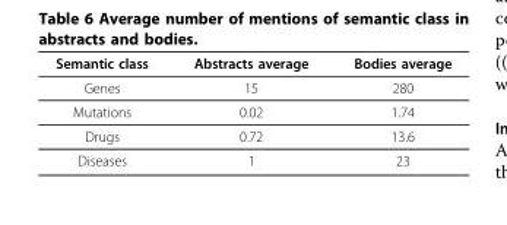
<table><thead><tr><td>Semantic class</td><td>Abstracts average</td><td>Bodies average</td></tr></thead><tbody><tr><td>Genes</td><td>15</td><td>280</td></tr><tr><td>Mutations</td><td>0.02</td><td>1.74</td></tr><tr><td>Drugs</td><td>0.72</td><td>13.6</td></tr><tr><td>Diseases</td><td>1</td><td>23</td></tr></tbody></table>